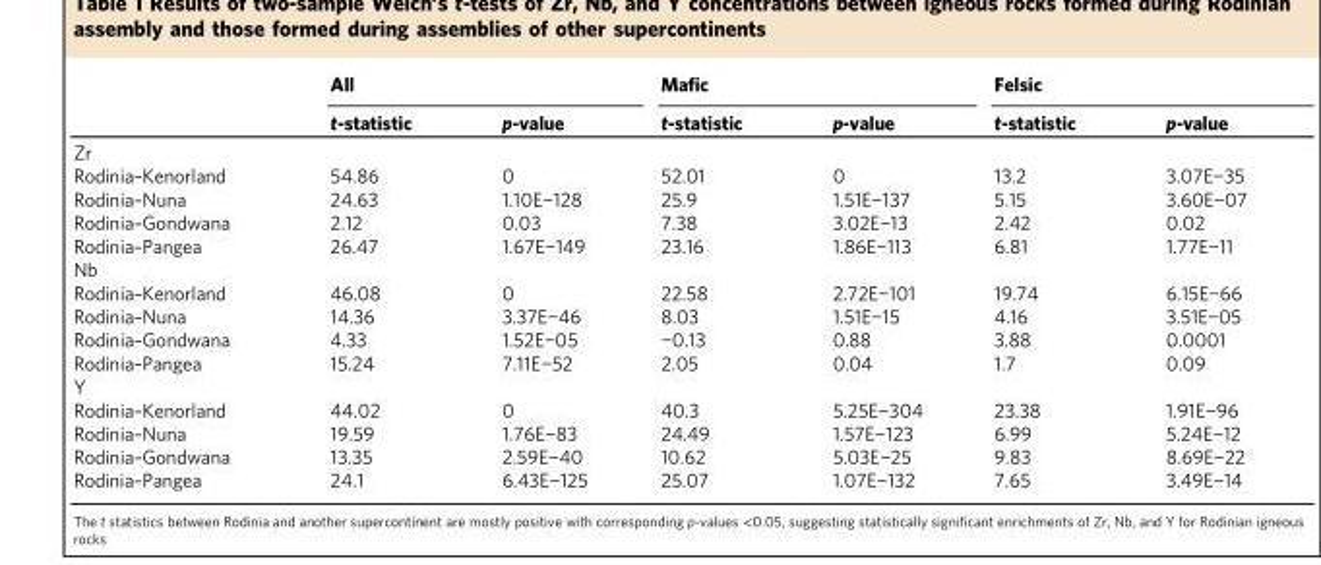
<table><thead><tr><td rowspan="2"></td><td colspan="2">All</td><td colspan="2">Mafic</td><td colspan="2">Felsic</td></tr><tr><td>t-statistic</td><td>p-value</td><td>t-statistic</td><td>p-value</td><td>t-statistic</td><td>p-value</td></tr></thead><tbody><tr><td colspan="7">Zr</td></tr><tr><td>Rodinia–Kenorland</td><td>54.86</td><td>0</td><td>52.01</td><td>0</td><td>13.2</td><td>3.07E−35</td></tr><tr><td>Rodinia–Nuna</td><td>24.63</td><td>1.10E−128</td><td>25.9</td><td>1.51E−137</td><td>5.15</td><td>3.60E−07</td></tr><tr><td>Rodinia–Gondwana</td><td>2.12</td><td>0.03</td><td>7.38</td><td>3.02E−13</td><td>2.42</td><td>0.02</td></tr><tr><td>Rodinia–Pangea</td><td>26.47</td><td>1.67E−149</td><td>23.16</td><td>1.86E−113</td><td>6.81</td><td>1.77E−11</td></tr><tr><td colspan="7">Nb</td></tr><tr><td>Rodinia–Kenorland</td><td>46.08</td><td>0</td><td>22.58</td><td>2.72E−101</td><td>19.74</td><td>6.15E−66</td></tr><tr><td>Rodinia–Nuna</td><td>14.36</td><td>3.37E−46</td><td>8.03</td><td>1.51E−15</td><td>4.16</td><td>3.51E−05</td></tr><tr><td>Rodinia–Gondwana</td><td>4.33</td><td>1.52E−05</td><td>−0.13</td><td>0.88</td><td>3.88</td><td>0.0001</td></tr><tr><td>Rodinia–Pangea</td><td>15.24</td><td>7.11E−52</td><td>2.05</td><td>0.04</td><td>1.7</td><td>0.09</td></tr><tr><td colspan="7">Y</td></tr><tr><td>Rodinia–Kenorland</td><td>44.02</td><td>0</td><td>40.3</td><td>5.25E−304</td><td>23.38</td><td>1.91E−96</td></tr><tr><td>Rodinia–Nuna</td><td>19.59</td><td>1.76E−83</td><td>24.49</td><td>1.57E−123</td><td>6.99</td><td>5.24E−12</td></tr><tr><td>Rodinia–Gondwana</td><td>13.35</td><td>2.59E−40</td><td>10.62</td><td>5.03E−25</td><td>9.83</td><td>8.69E−22</td></tr><tr><td>Rodinia–Pangea</td><td>24.1</td><td>6.43E−125</td><td>25.07</td><td>1.07E−132</td><td>7.65</td><td>3.49E−14</td></tr></tbody></table>